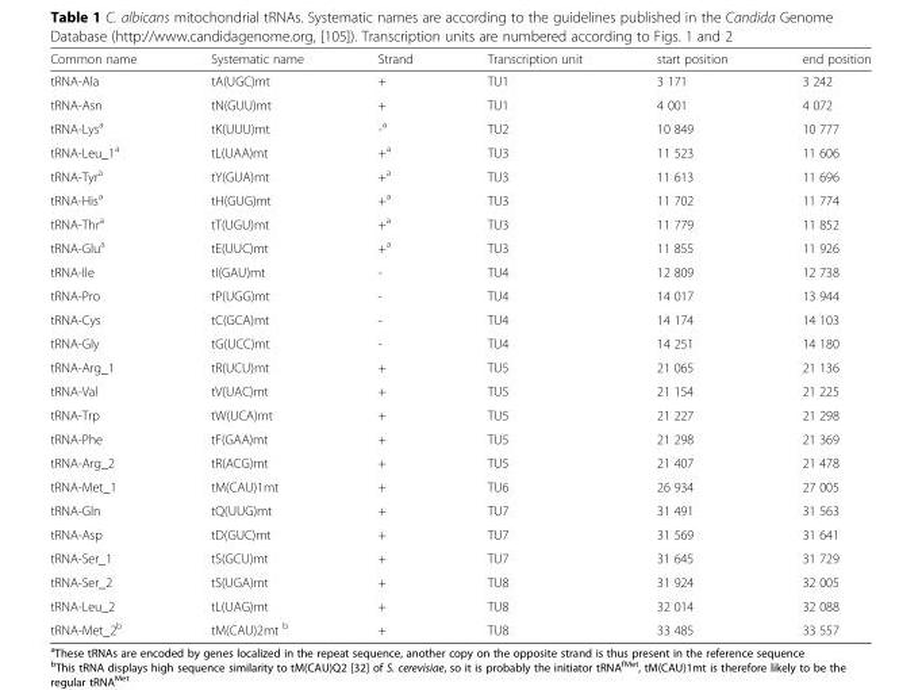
<table><thead><tr><td>Common name</td><td>Systematic name</td><td>Strand</td><td>Transcription unit</td><td>start position</td><td>end position</td></tr></thead><tbody><tr><td>tRNA-Ala</td><td>tA(UGC)mt</td><td>+</td><td>TU1</td><td>3 171</td><td>3 242</td></tr><tr><td>tRNA-Asn</td><td>tN(GUU)mt</td><td>+</td><td>TU1</td><td>4 001</td><td>4 072</td></tr><tr><td>tRNA-Lys<sup>a</sup></td><td>tK(UUU)mt</td><td>-<sup>a</sup></td><td>TU2</td><td>10 849</td><td>10 777</td></tr><tr><td>tRNA-Leu_1<sup>a</sup></td><td>tL(UAA)mt</td><td>+<sup>a</sup></td><td>TU3</td><td>11 523</td><td>11 606</td></tr><tr><td>tRNA-Tyr<sup>a</sup></td><td>tY(GUA)mt</td><td>+<sup>a</sup></td><td>TU3</td><td>11 613</td><td>11 696</td></tr><tr><td>tRNA-His<sup>a</sup></td><td>tH(GUG)mt</td><td>+<sup>a</sup></td><td>TU3</td><td>11 702</td><td>11 774</td></tr><tr><td>tRNA-Thr<sup>a</sup></td><td>tT(UGU)mt</td><td>+<sup>a</sup></td><td>TU3</td><td>11 779</td><td>11 852</td></tr><tr><td>tRNA-Glu<sup>a</sup></td><td>tE(UUC)mt</td><td>+<sup>a</sup></td><td>TU3</td><td>11 855</td><td>11 926</td></tr><tr><td>tRNA-Ile</td><td>tI(GAU)mt</td><td>-</td><td>TU4</td><td>12 809</td><td>12 738</td></tr><tr><td>tRNA-Pro</td><td>tP(UGG)mt</td><td>-</td><td>TU4</td><td>14 017</td><td>13 944</td></tr><tr><td>tRNA-Cys</td><td>tC(GCA)mt</td><td>-</td><td>TU4</td><td>14 174</td><td>14 103</td></tr><tr><td>tRNA-Gly</td><td>tG(UCC)mt</td><td>-</td><td>TU4</td><td>14 251</td><td>14 180</td></tr><tr><td>tRNA-Arg_1</td><td>tR(UCU)mt</td><td>+</td><td>TU5</td><td>21 065</td><td>21 136</td></tr><tr><td>tRNA-Val</td><td>tV(UAC)mt</td><td>+</td><td>TU5</td><td>21 154</td><td>21 225</td></tr><tr><td>tRNA-Trp</td><td>tW(UCA)mt</td><td>+</td><td>TU5</td><td>21 227</td><td>21 298</td></tr><tr><td>tRNA-Phe</td><td>tF(GAA)mt</td><td>+</td><td>TU5</td><td>21 298</td><td>21 369</td></tr><tr><td>tRNA-Arg_2</td><td>tR(ACG)mt</td><td>+</td><td>TU5</td><td>21 407</td><td>21 478</td></tr><tr><td>tRNA-Met_1</td><td>tM(CAU)1mt</td><td>+</td><td>TU6</td><td>26 934</td><td>27 005</td></tr><tr><td>tRNA-Gln</td><td>tQ(UUG)mt</td><td>+</td><td>TU7</td><td>31 491</td><td>31 563</td></tr><tr><td>tRNA-Asp</td><td>tD(GUC)mt</td><td>+</td><td>TU7</td><td>31 569</td><td>31 641</td></tr><tr><td>tRNA-Ser_1</td><td>tS(GCU)mt</td><td>+</td><td>TU7</td><td>31 645</td><td>31 729</td></tr><tr><td>tRNA-Ser_2</td><td>tS(UGA)mt</td><td>+</td><td>TU8</td><td>31 924</td><td>32 005</td></tr><tr><td>tRNA-Leu_2</td><td>tL(UAG)mt</td><td>+</td><td>TU8</td><td>32 014</td><td>32 088</td></tr><tr><td>tRNA-Met_2<sup>b</sup></td><td>tM(CAU)2mt <sup>b</sup></td><td>+</td><td>TU8</td><td>33 485</td><td>33 557</td></tr></tbody></table>